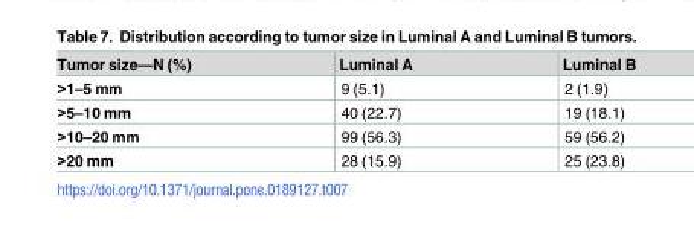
<table><thead><tr><td>Tumor size—N (%)</td><td>Luminal A</td><td>Luminal B</td></tr></thead><tbody><tr><td>&gt;1–5 mm</td><td>9 (5.1)</td><td>2 (1.9)</td></tr><tr><td>&gt;5–10 mm</td><td>40 (22.7)</td><td>19 (18.1)</td></tr><tr><td>&gt;10–20 mm</td><td>99 (56.3)</td><td>59 (56.2)</td></tr><tr><td>&gt;20 mm</td><td>28 (15.9)</td><td>25 (23.8)</td></tr></tbody></table>